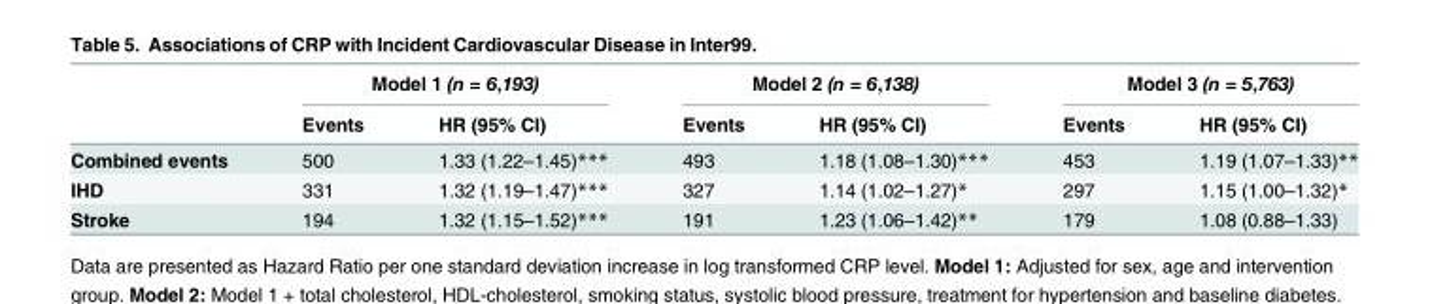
<table><thead><tr><td rowspan="2"></td><td colspan="2">Model 1 (n = 6,193)</td><td colspan="2">Model 2 (n = 6,138)</td><td colspan="2">Model 3 (n = 5,763)</td></tr><tr><td>Events</td><td>HR (95% CI)</td><td>Events</td><td>HR (95% CI)</td><td>Events</td><td>HR (95% CI)</td></tr></thead><tbody><tr><td>Combined events</td><td>500</td><td>1.33 (1.22–1.45)***</td><td>493</td><td>1.18 (1.08–1.30)***</td><td>453</td><td>1.19 (1.07–1.33)**</td></tr><tr><td>IHD</td><td>331</td><td>1.32 (1.19–1.47)***</td><td>327</td><td>1.14 (1.02–1.27)*</td><td>297</td><td>1.15 (1.00–1.32)*</td></tr><tr><td>Stroke</td><td>194</td><td>1.32 (1.15–1.52)***</td><td>191</td><td>1.23 (1.06–1.42)**</td><td>179</td><td>1.08 (0.88–1.33)</td></tr></tbody></table>